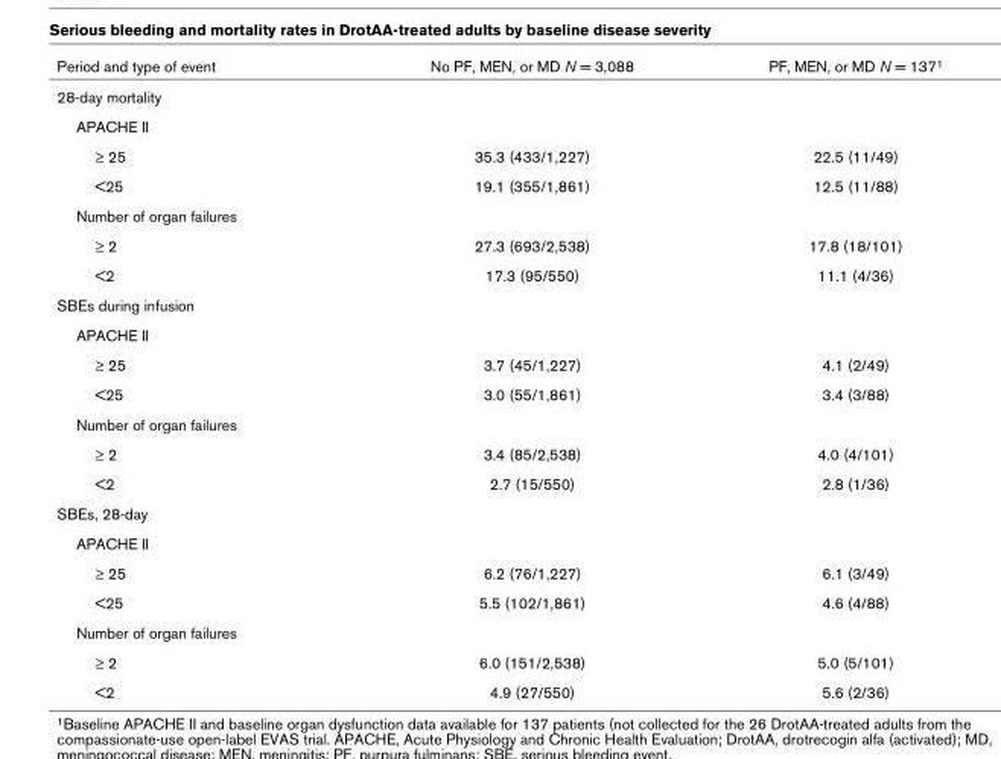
<table><thead><tr><td>Period and type of event</td><td>No PF, MEN, or MD N = 3,088</td><td>PF, MEN, or MD N = 1371</td></tr></thead><tbody><tr><td colspan="3">28-day mortality</td></tr><tr><td colspan="3">APACHE II</td></tr><tr><td>≥ 25</td><td>35.3 (433/1,227)</td><td>22.5 (11/49)</td></tr><tr><td>&lt;25</td><td>19.1 (355/1,861)</td><td>12.5 (11/88)</td></tr><tr><td colspan="3">Number of organ failures</td></tr><tr><td>≥ 2</td><td>27.3 (693/2,538)</td><td>17.8 (18/101)</td></tr><tr><td>&lt;2</td><td>17.3 (95/550)</td><td>11.1 (4/36)</td></tr><tr><td colspan="3">SBEs during infusion</td></tr><tr><td colspan="3">APACHE II</td></tr><tr><td>≥ 25</td><td>3.7 (45/1,227)</td><td>4.1 (2/49)</td></tr><tr><td>&lt;25</td><td>3.0 (55/1,861)</td><td>3.4 (3/88)</td></tr><tr><td colspan="3">Number of organ failures</td></tr><tr><td>≥ 2</td><td>3.4 (85/2,538)</td><td>4.0 (4/101)</td></tr><tr><td>&lt;2</td><td>2.7 (15/550)</td><td>2.8 (1/36)</td></tr><tr><td colspan="3">SBEs, 28-day</td></tr><tr><td colspan="3">APACHE II</td></tr><tr><td>≥ 25</td><td>6.2 (76/1,227)</td><td>6.1 (3/49)</td></tr><tr><td>&lt;25</td><td>5.5 (102/1,861)</td><td>4.6 (4/88)</td></tr><tr><td colspan="3">Number of organ failures</td></tr><tr><td>≥ 2</td><td>6.0 (151/2,538)</td><td>5.0 (5/101)</td></tr><tr><td>&lt;2</td><td>4.9 (27/550)</td><td>5.6 (2/36)</td></tr></tbody></table>